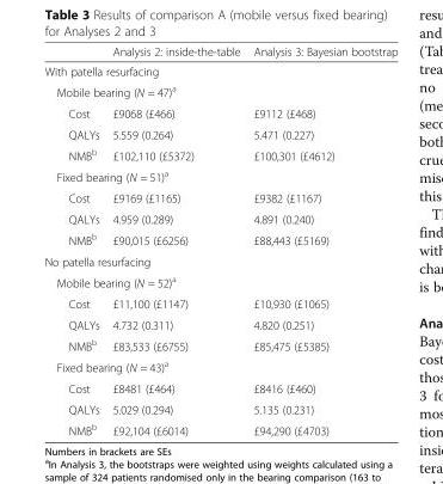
<table><thead><tr><td></td><td>Analysis 2: inside-the-table</td><td>Analysis 3: Bayesian bootstrap</td></tr></thead><tbody><tr><td colspan="3">With patella resurfacing</td></tr><tr><td colspan="3">Mobile bearing (N = 47)<sup>a</sup></td></tr><tr><td>Cost</td><td>£9068 (£466)</td><td>£9112 (£468)</td></tr><tr><td>QALYs</td><td>5.559 (0.264)</td><td>5.471 (0.227)</td></tr><tr><td>NMB<sup>b</sup></td><td>£102,110 (£5372)</td><td>£100,301 (£4612)</td></tr><tr><td colspan="3">Fixed bearing (N = 51)<sup>a</sup></td></tr><tr><td>Cost</td><td>£9169 (£1165)</td><td>£9382 (£1167)</td></tr><tr><td>QALYs</td><td>4.959 (0.289)</td><td>4.891 (0.240)</td></tr><tr><td>NMB<sup>b</sup></td><td>£90,015 (£6256)</td><td>£88,443 (£5169)</td></tr><tr><td colspan="3">No patella resurfacing</td></tr><tr><td colspan="3">Mobile bearing (N = 52)<sup>a</sup></td></tr><tr><td>Cost</td><td>£11,100 (£1147)</td><td>£10,930 (£1065)</td></tr><tr><td>QALYs</td><td>4.732 (0.311)</td><td>4.820 (0.251)</td></tr><tr><td>NMB<sup>b</sup></td><td>£83,533 (£6755)</td><td>£85,475 (£5385)</td></tr><tr><td colspan="3">Fixed bearing (N = 43)<sup>a</sup></td></tr><tr><td>Cost</td><td>£8481 (£464)</td><td>£8416 (£460)</td></tr><tr><td>QALYs</td><td>5.029 (0.294)</td><td>5.135 (0.231)</td></tr><tr><td>NMB<sup>b</sup></td><td>£92,104 (£6014)</td><td>£94,290 (£4703)</td></tr></tbody></table>